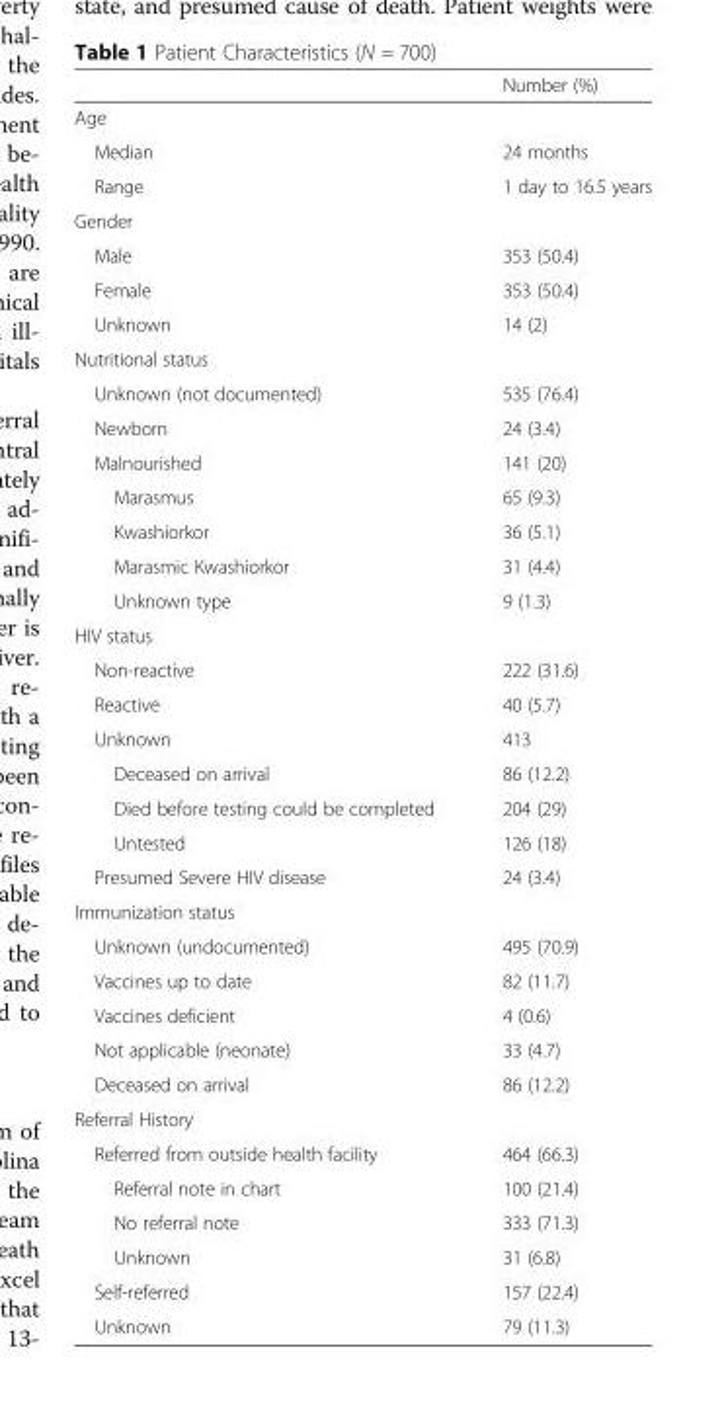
<table><thead><tr><td></td><td>Number (%)</td></tr></thead><tbody><tr><td colspan="2">Age</td></tr><tr><td>Median</td><td>24 months</td></tr><tr><td>Range</td><td>1 day to 16.5 years</td></tr><tr><td colspan="2">Gender</td></tr><tr><td>Male</td><td>353 (50.4)</td></tr><tr><td>Female</td><td>353 (50.4)</td></tr><tr><td>Unknown</td><td>14 (2)</td></tr><tr><td colspan="2">Nutritional status</td></tr><tr><td>Unknown (not documented)</td><td>535 (76.4)</td></tr><tr><td>Newborn</td><td>24 (3.4)</td></tr><tr><td>Malnourished</td><td>141 (20)</td></tr><tr><td>Marasmus</td><td>65 (9.3)</td></tr><tr><td>Kwashiorkor</td><td>36 (5.1)</td></tr><tr><td>Marasmic Kwashiorkor</td><td>31 (4.4)</td></tr><tr><td>Unknown type</td><td>9 (1.3)</td></tr><tr><td colspan="2">HIV status</td></tr><tr><td>Non-reactive</td><td>222 (31.6)</td></tr><tr><td>Reactive</td><td>40 (5.7)</td></tr><tr><td>Unknown</td><td>413</td></tr><tr><td>Deceased on arrival</td><td>86 (12.2)</td></tr><tr><td>Died before testing could be completed</td><td>204 (29)</td></tr><tr><td>Untested</td><td>126 (18)</td></tr><tr><td>Presumed Severe HIV disease</td><td>24 (3.4)</td></tr><tr><td colspan="2">Immunization status</td></tr><tr><td>Unknown (undocumented)</td><td>495 (70.9)</td></tr><tr><td>Vaccines up to date</td><td>82 (11.7)</td></tr><tr><td>Vaccines deficient</td><td>4 (0.6)</td></tr><tr><td>Not applicable (neonate)</td><td>33 (4.7)</td></tr><tr><td>Deceased on arrival</td><td>86 (12.2)</td></tr><tr><td colspan="2">Referral History</td></tr><tr><td>Referred from outside health facility</td><td>464 (66.3)</td></tr><tr><td>Referral note in chart</td><td>100 (21.4)</td></tr><tr><td>No referral note</td><td>333 (71.3)</td></tr><tr><td>Unknown</td><td>31 (6.8)</td></tr><tr><td>Self-referred</td><td>157 (22.4)</td></tr><tr><td>Unknown</td><td>79 (11.3)</td></tr></tbody></table>